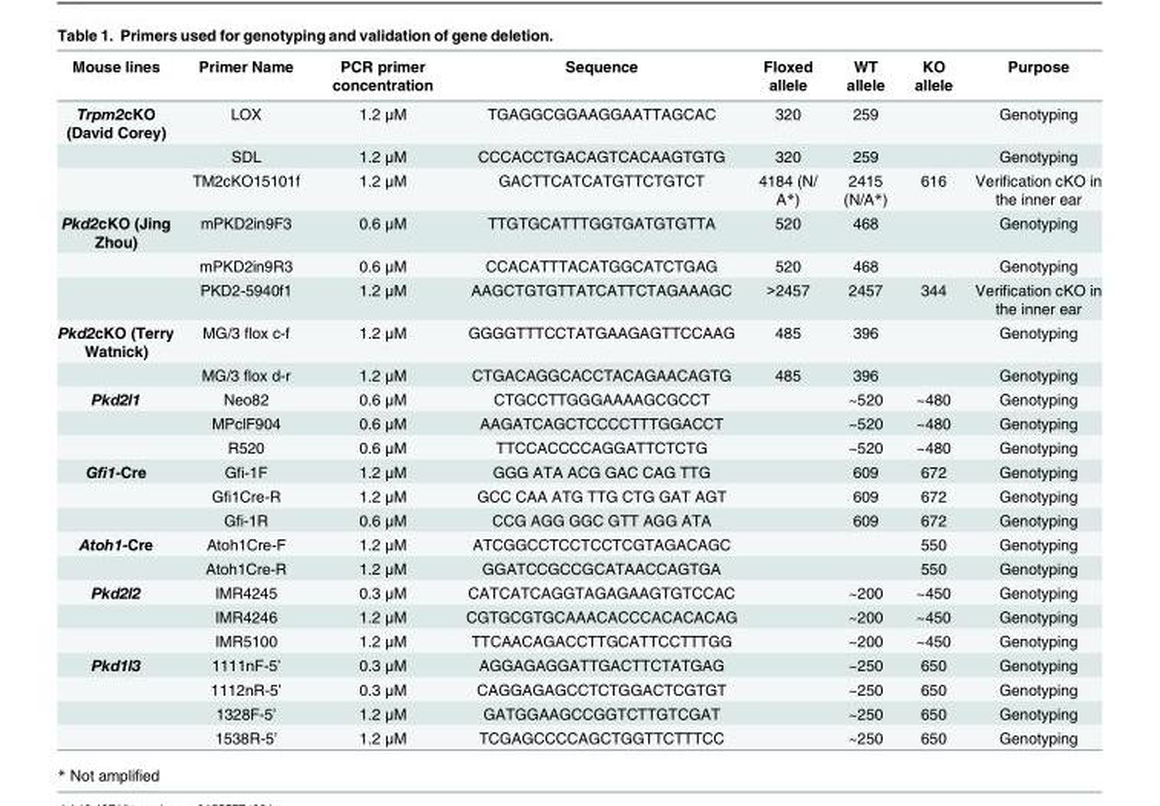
<table><thead><tr><td>Mouse lines</td><td>Primer Name</td><td>PCR primer concentration</td><td>Sequence</td><td>Floxed allele</td><td>WT allele</td><td>KO allele</td><td>Purpose</td></tr></thead><tbody><tr><td rowspan="3">Trpm2cKO (David Corey)</td><td>LOX</td><td>1.2 μM</td><td>TGAGGCGGAAGGAATTAGCAC</td><td>320</td><td>259</td><td></td><td>Genotyping</td></tr><tr><td>SDL</td><td>1.2 μM</td><td>CCCACCTGACAGTCACAAGTGTG</td><td>320</td><td>259</td><td></td><td>Genotyping</td></tr><tr><td>TM2cKO15101f</td><td>1.2 μM</td><td>GACTTCATCATGTTCTGTCT</td><td>4184 (N/ A*)</td><td>2415 (N/A*)</td><td>616</td><td>Verification cKO in the inner ear</td></tr><tr><td rowspan="3">Pkd2cKO (Jing Zhou)</td><td>mPKD2in9F3</td><td>0.6 μM</td><td>TTGTGCATTTGGTGATGTGTTA</td><td>520</td><td>468</td><td></td><td>Genotyping</td></tr><tr><td>mPKD2in9R3</td><td>0.6 μM</td><td>CCACATTTACATGGCATCTGAG</td><td>520</td><td>468</td><td></td><td>Genotyping</td></tr><tr><td>PKD2-5940f1</td><td>1.2 μM</td><td>AAGCTGTGTTATCATTCTAGAAAGC</td><td>&gt;2457</td><td>2457</td><td>344</td><td>Verification cKO in the inner ear</td></tr><tr><td rowspan="2">Pkd2cKO (Terry Watnick)</td><td>MG/3 flox c-f</td><td>1.2 μM</td><td>GGGGTTTCCTATGAAGAGTTCCAAG</td><td>485</td><td>396</td><td></td><td>Genotyping</td></tr><tr><td>MG/3 flox d-r</td><td>1.2 μM</td><td>CTGACAGGCACCTACAGAACAGTG</td><td>485</td><td>396</td><td></td><td>Genotyping</td></tr><tr><td rowspan="3">Pkd2l1</td><td>Neo82</td><td>0.6 μM</td><td>CTGCCTTGGGAAAAGCGCCT</td><td></td><td>~520</td><td>~480</td><td>Genotyping</td></tr><tr><td>MPclF904</td><td>0.6 μM</td><td>AAGATCAGCTCCCCTTTGGACCT</td><td></td><td>~520</td><td>~480</td><td>Genotyping</td></tr><tr><td>R520</td><td>0.6 μM</td><td>TTCCACCCCAGGATTCTCTG</td><td></td><td>~520</td><td>~480</td><td>Genotyping</td></tr><tr><td rowspan="3">Gfi1-Cre</td><td>Gfi-1F</td><td>1.2 μM</td><td>GGG ATA ACG GAC CAG TTG</td><td></td><td>609</td><td>672</td><td>Genotyping</td></tr><tr><td>Gfi1Cre-R</td><td>1.2 μM</td><td>GCC CAA ATG TTG CTG GAT AGT</td><td></td><td>609</td><td>672</td><td>Genotyping</td></tr><tr><td>Gfi-1R</td><td>0.6 μM</td><td>CCG AGG GGC GTT AGG ATA</td><td></td><td>609</td><td>672</td><td>Genotyping</td></tr><tr><td rowspan="2">Atoh1-Cre</td><td>Atoh1Cre-F</td><td>1.2 μM</td><td>ATCGGCCTCCTCCTCGTAGACAGC</td><td></td><td></td><td>550</td><td>Genotyping</td></tr><tr><td>Atoh1Cre-R</td><td>1.2 μM</td><td>GGATCCGCCGCATAACCAGTGA</td><td></td><td></td><td>550</td><td>Genotyping</td></tr><tr><td rowspan="3">Pkd2l2</td><td>IMR4245</td><td>0.3 μM</td><td>CATCATCAGGTAGAGAAGTGTCCAC</td><td></td><td>~200</td><td>~450</td><td>Genotyping</td></tr><tr><td>IMR4246</td><td>1.2 μM</td><td>CGTGCGTGCAAACACCCACACACAG</td><td></td><td>~200</td><td>~450</td><td>Genotyping</td></tr><tr><td>IMR5100</td><td>1.2 μM</td><td>TTCAACAGACCTTGCATTCCTTTGG</td><td></td><td>~200</td><td>~450</td><td>Genotyping</td></tr><tr><td rowspan="4">Pkd1l3</td><td>1111nF-5’</td><td>0.3 μM</td><td>AGGAGAGGATTGACTTCTATGAG</td><td></td><td>~250</td><td>650</td><td>Genotyping</td></tr><tr><td>1112nR-5’</td><td>0.3 μM</td><td>CAGGAGAGCCTCTGGACTCGTGT</td><td></td><td>~250</td><td>650</td><td>Genotyping</td></tr><tr><td>1328F-5’</td><td>1.2 μM</td><td>GATGGAAGCCGGTCTTGTCGAT</td><td></td><td>~250</td><td>650</td><td>Genotyping</td></tr><tr><td>1538R-5’</td><td>1.2 μM</td><td>TCGAGCCCCAGCTGGTTCTTTCC</td><td></td><td>~250</td><td>650</td><td>Genotyping</td></tr></tbody></table>